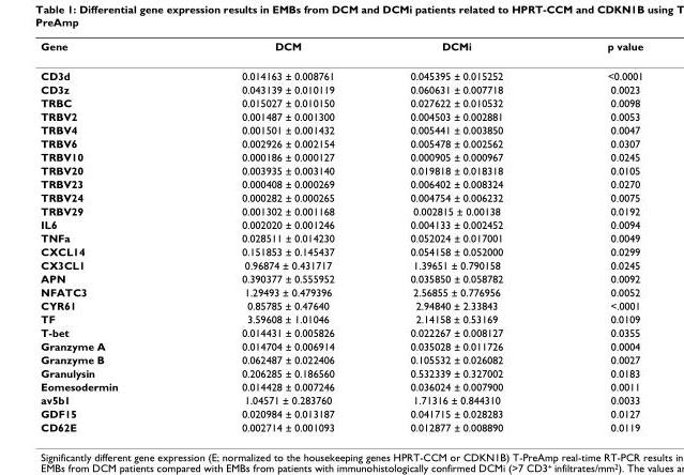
<table><thead><tr><td>Gene</td><td>DCM</td><td>DCMi</td><td>p value</td></tr></thead><tbody><tr><td>CD3d</td><td>0.014163 ± 0.008761</td><td>0.045395 ± 0.015252</td><td>&lt;0.0001</td></tr><tr><td>CD3z</td><td>0.043139 ± 0.010119</td><td>0.060631 ± 0.007718</td><td>0.0023</td></tr><tr><td>TRBC</td><td>0.015027 ± 0.010150</td><td>0.027622 ± 0.010532</td><td>0.0098</td></tr><tr><td>TRBV2</td><td>0.001487 ± 0.001300</td><td>0.004503 ± 0.002881</td><td>0.0053</td></tr><tr><td>TRBV4</td><td>0.001501 ± 0.001432</td><td>0.005441 ± 0.003850</td><td>0.0047</td></tr><tr><td>TRBV6</td><td>0.002926 ± 0.002154</td><td>0.005478 ± 0.002562</td><td>0.0307</td></tr><tr><td>TRBV10</td><td>0.000186 ± 0.000127</td><td>0.000905 ± 0.000967</td><td>0.0245</td></tr><tr><td>TRBV20</td><td>0.003935 ± 0.003140</td><td>0.019818 ± 0.018318</td><td>0.0105</td></tr><tr><td>TRBV23</td><td>0.000408 ± 0.000269</td><td>0.006402 ± 0.008324</td><td>0.0270</td></tr><tr><td>TRBV24</td><td>0.000282 ± 0.000265</td><td>0.004754 ± 0.006232</td><td>0.0075</td></tr><tr><td>TRBV29</td><td>0.001302 ± 0.001168</td><td>0.002815 ± 0.00138</td><td>0.0192</td></tr><tr><td>IL6</td><td>0.002020 ± 0.001246</td><td>0.004133 ± 0.002452</td><td>0.0094</td></tr><tr><td>TNFa</td><td>0.028511 ± 0.014230</td><td>0.052024 ± 0.017001</td><td>0.0049</td></tr><tr><td>CXCL14</td><td>0.151853 ± 0.145437</td><td>0.054158 ± 0.052000</td><td>0.0299</td></tr><tr><td>CX3CL1</td><td>0.96874 ± 0.431717</td><td>1.39651 ± 0.790158</td><td>0.0245</td></tr><tr><td>APN</td><td>0.390377 ± 0.555952</td><td>0.035850 ± 0.058782</td><td>0.0092</td></tr><tr><td>NFATC3</td><td>1.29493 ± 0.479396</td><td>2.56855 ± 0.776956</td><td>0.0052</td></tr><tr><td>CYR61</td><td>0.85785 ± 0.47640</td><td>2.94840 ± 2.33843</td><td>&lt;.0001</td></tr><tr><td>TF</td><td>3.59608 ± 1.01046</td><td>2.14158 ± 0.53169</td><td>0.0109</td></tr><tr><td>T-bet</td><td>0.014431 ± 0.005826</td><td>0.022267 ± 0.008127</td><td>0.0355</td></tr><tr><td>Granzyme A</td><td>0.014704 ± 0.006914</td><td>0.035028 ± 0.011726</td><td>0.0004</td></tr><tr><td>Granzyme B</td><td>0.062487 ± 0.022406</td><td>0.105532 ± 0.026082</td><td>0.0027</td></tr><tr><td>Granulysin</td><td>0.206285 ± 0.186560</td><td>0.532339 ± 0.327002</td><td>0.0183</td></tr><tr><td>Eomesodermin</td><td>0.014428 ± 0.007246</td><td>0.036024 ± 0.007900</td><td>0.0011</td></tr><tr><td>av5b1</td><td>1.04571 ± 0.283760</td><td>1.71316 ± 0.844310</td><td>0.0033</td></tr><tr><td>GDF15</td><td>0.020984 ± 0.013187</td><td>0.041715 ± 0.028283</td><td>0.0127</td></tr><tr><td>CD62E</td><td>0.002714 ± 0.001093</td><td>0.012877 ± 0.008890</td><td>0.0119</td></tr></tbody></table>